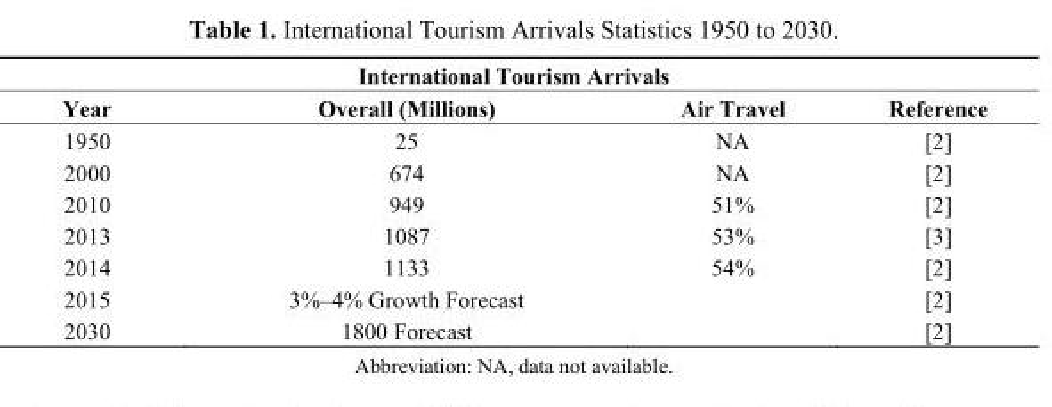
<table><thead><tr><td colspan="4">International Tourism Arrivals</td></tr><tr><td>Year</td><td>Overall (Millions)</td><td>Air Travel</td><td>Reference</td></tr></thead><tbody><tr><td>1950</td><td>25</td><td>NA</td><td>[2]</td></tr><tr><td>2000</td><td>674</td><td>NA</td><td>[2]</td></tr><tr><td>2010</td><td>949</td><td>51%</td><td>[2]</td></tr><tr><td>2013</td><td>1087</td><td>53%</td><td>[3]</td></tr><tr><td>2014</td><td>1133</td><td>54%</td><td>[2]</td></tr><tr><td>2015</td><td>3%–4% Growth Forecast</td><td></td><td>[2]</td></tr><tr><td>2030</td><td>1800 Forecast</td><td></td><td>[2]</td></tr></tbody></table>